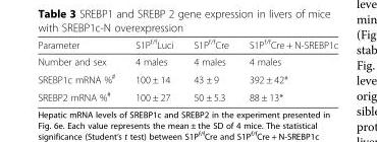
<table><thead><tr><td>Parameter</td><td>S1P<sup>f/f</sup>Luci</td><td>S1P<sup>f/f</sup>Cre</td><td>S1P<sup>f/f</sup>Cre + N-SREBP1c</td></tr></thead><tbody><tr><td>Number and sex</td><td>4 males</td><td>4 males</td><td>4 males</td></tr><tr><td>SREBP1c mRNA %<sup>#</sup></td><td>100 ± 14</td><td>43 ± 9</td><td>392 ± 42*</td></tr><tr><td>SREBP2 mRNA %<sup>#</sup></td><td>100 ± 27</td><td>50 ± 5.3</td><td>88 ± 13*</td></tr></tbody></table>